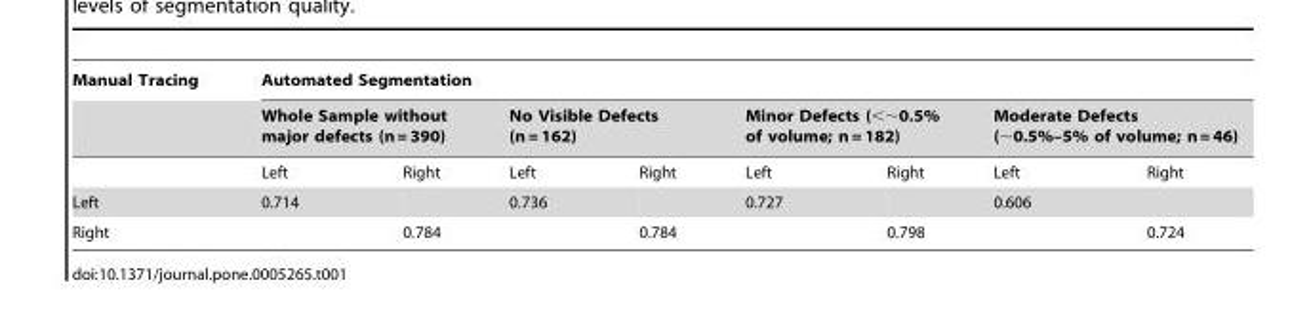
<table><thead><tr><td rowspan="3">Manual Tracing</td><td colspan="8">Automated Segmentation</td></tr><tr><td colspan="2">Whole Sample without major defects (n = 390)</td><td colspan="2">No Visible Defects (n = 162)</td><td colspan="2">Minor Defects (&lt;∼0.5% of volume; n = 182)</td><td colspan="2">Moderate Defects (∼0.5%–5% of volume; n = 46)</td></tr><tr><td>Left</td><td>Right</td><td>Left</td><td>Right</td><td>Left</td><td>Right</td><td>Left</td><td>Right</td></tr></thead><tbody><tr><td>Left</td><td>0.714</td><td></td><td>0.736</td><td></td><td>0.727</td><td></td><td>0.606</td><td></td></tr><tr><td>Right</td><td></td><td>0.784</td><td></td><td>0.784</td><td></td><td>0.798</td><td></td><td>0.724</td></tr></tbody></table>